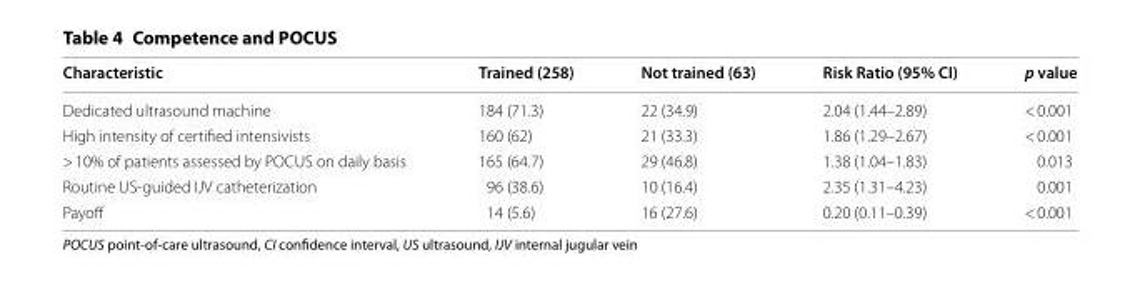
<table><thead><tr><td>Characteristic</td><td>Trained (258)</td><td>Not trained (63)</td><td>Risk Ratio (95% CI)</td><td>p value</td></tr></thead><tbody><tr><td>Dedicated ultrasound machine</td><td>184 (71.3)</td><td>22 (34.9)</td><td>2.04 (1.44–2.89)</td><td>&lt; 0.001</td></tr><tr><td>High intensity of certified intensivists</td><td>160 (62)</td><td>21 (33.3)</td><td>1.86 (1.29–2.67)</td><td>&lt; 0.001</td></tr><tr><td>&gt; 10% of patients assessed by POCUS on daily basis</td><td>165 (64.7)</td><td>29 (46.8)</td><td>1.38 (1.04–1.83)</td><td>0.013</td></tr><tr><td>Routine US-guided IJV catheterization</td><td>96 (38.6)</td><td>10 (16.4)</td><td>2.35 (1.31–4.23)</td><td>0.001</td></tr><tr><td>Payoff</td><td>14 (5.6)</td><td>16 (27.6)</td><td>0.20 (0.11–0.39)</td><td>&lt; 0.001</td></tr></tbody></table>